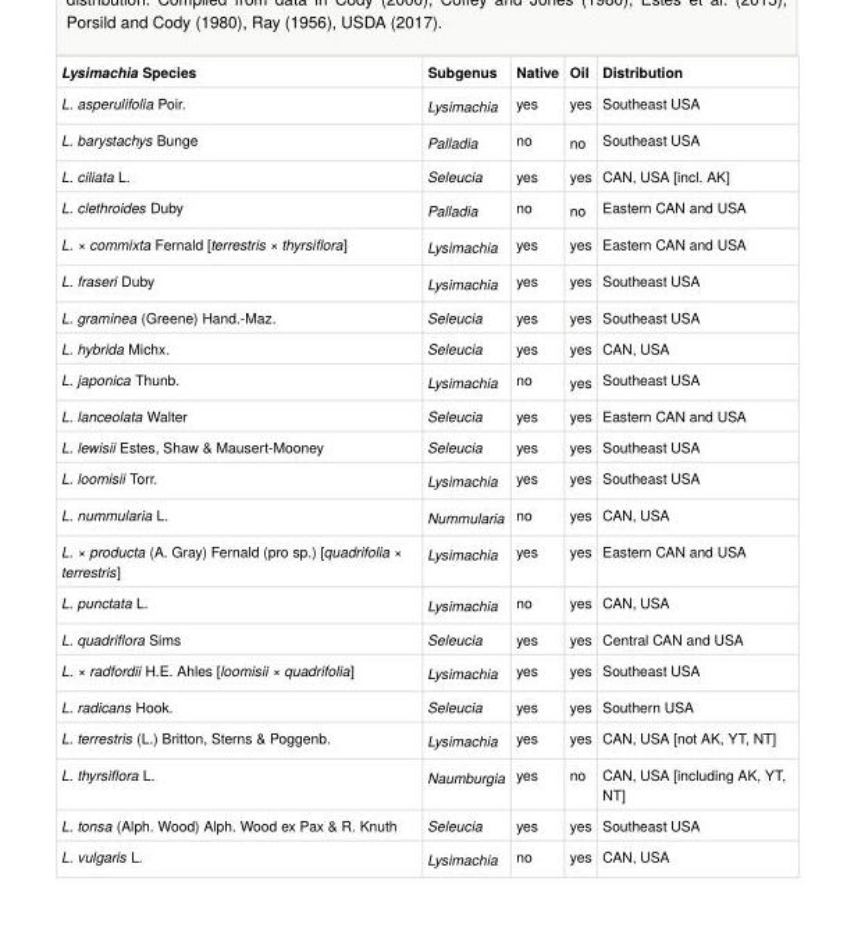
<table><tbody><tr><td>Lysimachia Species</td><td>Subgenus</td><td>Native</td><td>Oil</td><td>Distribution</td></tr><tr><td>L. asperulifolia Poir.</td><td>Lysimachia</td><td>yes</td><td>yes</td><td>Southeast USA</td></tr><tr><td>L. barystachys Bunge</td><td>Palladia</td><td>no</td><td>no</td><td>Southeast USA</td></tr><tr><td>L. ciliata L.</td><td>Seleucia</td><td>yes</td><td>yes</td><td>CAN, USA [incl. AK]</td></tr><tr><td>L. clethroides Duby</td><td>Palladia</td><td>no</td><td>no</td><td>Eastern CAN and USA</td></tr><tr><td>L. × commixta Fernald [terrestris × thyrsiflora]</td><td>Lysimachia</td><td>yes</td><td>yes</td><td>Eastern CAN and USA</td></tr><tr><td>L. fraseri Duby</td><td>Lysimachia</td><td>yes</td><td>yes</td><td>Southeast USA</td></tr><tr><td>L. graminea (Greene) Hand.-Maz.</td><td>Seleucia</td><td>yes</td><td>yes</td><td>Southeast USA</td></tr><tr><td>L. hybrida Michx.</td><td>Seleucia</td><td>yes</td><td>yes</td><td>CAN, USA</td></tr><tr><td>L. japonica Thunb.</td><td>Lysimachia</td><td>no</td><td>yes</td><td>Southeast USA</td></tr><tr><td>L. lanceolata Walter</td><td>Seleucia</td><td>yes</td><td>yes</td><td>Eastern CAN and USA</td></tr><tr><td>L. lewisii Estes, Shaw &amp; Mausert-Mooney</td><td>Seleucia</td><td>yes</td><td>yes</td><td>Southeast USA</td></tr><tr><td>L. loomisii Torr.</td><td>Lysimachia</td><td>yes</td><td>yes</td><td>Southeast USA</td></tr><tr><td>L. nummularia L.</td><td>Nummularia</td><td>no</td><td>yes</td><td>CAN, USA</td></tr><tr><td>L. × producta (A. Gray) Fernald (pro sp.) [quadrifolia × terrestris]</td><td>Lysimachia</td><td>yes</td><td>yes</td><td>Eastern CAN and USA</td></tr><tr><td>L. punctata L.</td><td>Lysimachia</td><td>no</td><td>yes</td><td>CAN, USA</td></tr><tr><td>L. quadriflora Sims</td><td>Seleucia</td><td>yes</td><td>yes</td><td>Central CAN and USA</td></tr><tr><td>L. × radfordii H.E. Ahles [loomisii × quadrifolia]</td><td>Lysimachia</td><td>yes</td><td>yes</td><td>Southeast USA</td></tr><tr><td>L. radicans Hook.</td><td>Seleucia</td><td>yes</td><td>yes</td><td>Southern USA</td></tr><tr><td>L. terrestris (L.) Britton, Sterns &amp; Poggenb.</td><td>Lysimachia</td><td>yes</td><td>yes</td><td>CAN, USA [not AK, YT, NT]</td></tr><tr><td>L. thyrsiflora L.</td><td>Naumburgia</td><td>yes</td><td>no</td><td>CAN, USA [including AK, YT, NT]</td></tr><tr><td>L. tonsa (Alph. Wood) Alph. Wood ex Pax &amp; R. Knuth</td><td>Seleucia</td><td>yes</td><td>yes</td><td>Southeast USA</td></tr><tr><td>L. vulgaris L.</td><td>Lysimachia</td><td>no</td><td>yes</td><td>CAN, USA</td></tr></tbody></table>